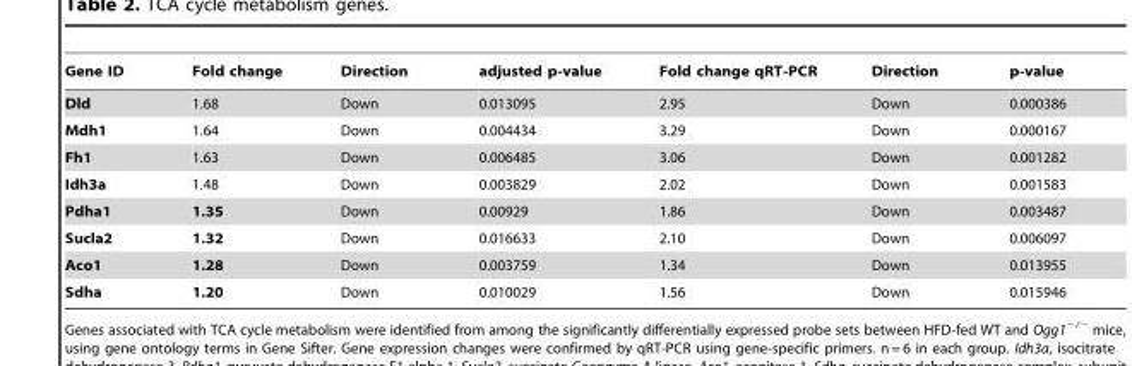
<table><thead><tr><td>Gene ID</td><td>Fold change</td><td>Direction</td><td>adjusted p-value</td><td>Fold change qRT-PCR</td><td>Direction</td><td>p-value</td></tr></thead><tbody><tr><td>Dld</td><td>1.68</td><td>Down</td><td>0.013095</td><td>2.95</td><td>Down</td><td>0.000386</td></tr><tr><td>Mdh1</td><td>1.64</td><td>Down</td><td>0.004434</td><td>3.29</td><td>Down</td><td>0.000167</td></tr><tr><td>Fh1</td><td>1.63</td><td>Down</td><td>0.006485</td><td>3.06</td><td>Down</td><td>0.001282</td></tr><tr><td>Idh3a</td><td>1.48</td><td>Down</td><td>0.003829</td><td>2.02</td><td>Down</td><td>0.001583</td></tr><tr><td>Pdha1</td><td>1.35</td><td>Down</td><td>0.00929</td><td>1.86</td><td>Down</td><td>0.003487</td></tr><tr><td>Sucla2</td><td>1.32</td><td>Down</td><td>0.016633</td><td>2.10</td><td>Down</td><td>0.006097</td></tr><tr><td>Aco1</td><td>1.28</td><td>Down</td><td>0.003759</td><td>1.34</td><td>Down</td><td>0.013955</td></tr><tr><td>Sdha</td><td>1.20</td><td>Down</td><td>0.010029</td><td>1.56</td><td>Down</td><td>0.015946</td></tr></tbody></table>